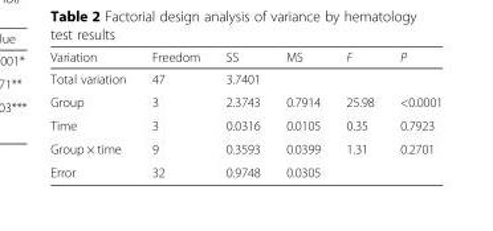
<table><thead><tr><td>Variation</td><td>Freedom</td><td>SS</td><td>MS</td><td>F</td><td>P</td></tr></thead><tbody><tr><td>Total variation</td><td>47</td><td>3.7401</td><td></td><td></td><td></td></tr><tr><td>Group</td><td>3</td><td>2.3743</td><td>0.7914</td><td>25.98</td><td>&lt;0.0001</td></tr><tr><td>Time</td><td>3</td><td>0.0316</td><td>0.0105</td><td>0.35</td><td>0.7923</td></tr><tr><td>Group × time</td><td>9</td><td>0.3593</td><td>0.0399</td><td>1.31</td><td>0.2701</td></tr><tr><td>Error</td><td>32</td><td>0.9748</td><td>0.0305</td><td></td><td></td></tr></tbody></table>